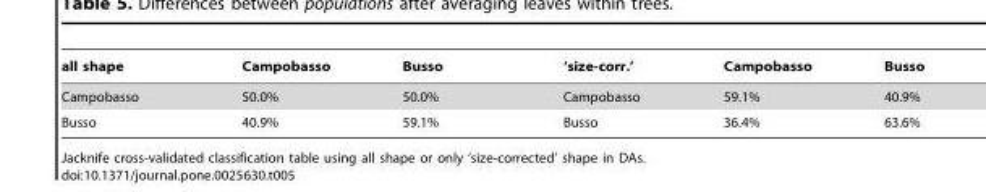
<table><thead><tr><td>all shape</td><td>Campobasso</td><td>Busso</td><td>‘size-corr.’</td><td>Campobasso</td><td>Busso</td></tr></thead><tbody><tr><td>Campobasso</td><td>50.0%</td><td>50.0%</td><td>Campobasso</td><td>59.1%</td><td>40.9%</td></tr><tr><td>Busso</td><td>40.9%</td><td>59.1%</td><td>Busso</td><td>36.4%</td><td>63.6%</td></tr></tbody></table>